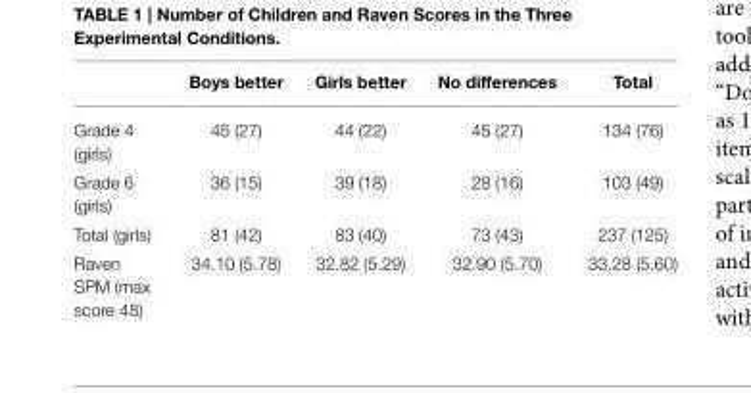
<table><thead><tr><td></td><td>Boys better</td><td>Girls better</td><td>No differences</td><td>Total</td></tr></thead><tbody><tr><td>Grade 4 (girls)</td><td>45 (27)</td><td>44 (22)</td><td>45 (27)</td><td>134 (76)</td></tr><tr><td>Grade 6 (girls)</td><td>36 (15)</td><td>39 (18)</td><td>28 (16)</td><td>103 (49)</td></tr><tr><td>Total (girls)</td><td>81 (42)</td><td>83 (40)</td><td>73 (43)</td><td>237 (125)</td></tr><tr><td>Raven SPM (max score 48)</td><td>34.10 (5.78)</td><td>32.82 (5.29)</td><td>32.90 (5.70)</td><td>33.28 (5.60)</td></tr></tbody></table>